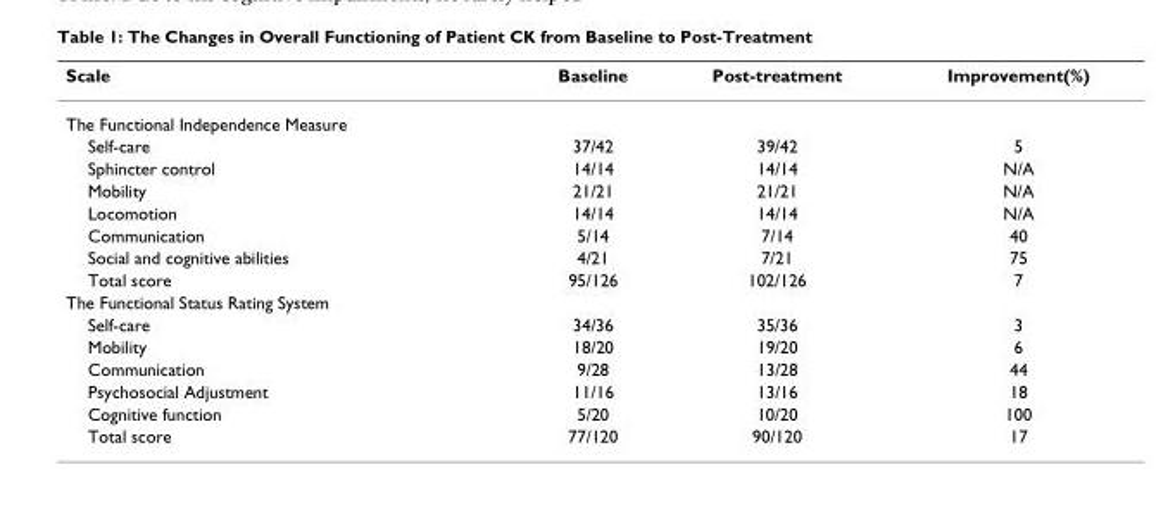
<table><thead><tr><td>Scale</td><td>Baseline</td><td>Post-treatment</td><td>Improvement(%)</td></tr></thead><tbody><tr><td colspan="4">The Functional Independence Measure</td></tr><tr><td>Self-care</td><td>37/42</td><td>39/42</td><td>5</td></tr><tr><td>Sphincter control</td><td>14/14</td><td>14/14</td><td>N/A</td></tr><tr><td>Mobility</td><td>21/21</td><td>21/21</td><td>N/A</td></tr><tr><td>Locomotion</td><td>14/14</td><td>14/14</td><td>N/A</td></tr><tr><td>Communication</td><td>5/14</td><td>7/14</td><td>40</td></tr><tr><td>Social and cognitive abilities</td><td>4/21</td><td>7/21</td><td>75</td></tr><tr><td>Total score</td><td>95/126</td><td>102/126</td><td>7</td></tr><tr><td colspan="4">The Functional Status Rating System</td></tr><tr><td>Self-care</td><td>34/36</td><td>35/36</td><td>3</td></tr><tr><td>Mobility</td><td>18/20</td><td>19/20</td><td>6</td></tr><tr><td>Communication</td><td>9/28</td><td>13/28</td><td>44</td></tr><tr><td>Psychosocial Adjustment</td><td>11/16</td><td>13/16</td><td>18</td></tr><tr><td>Cognitive function</td><td>5/20</td><td>10/20</td><td>100</td></tr><tr><td>Total score</td><td>77/120</td><td>90/120</td><td>17</td></tr></tbody></table>